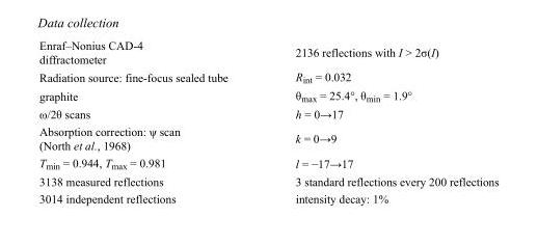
<table><tbody><tr><td>Enraf–Nonius CAD-4 diffractometer</td><td>2136 reflections with I &gt; 2σ(I)</td></tr><tr><td>Radiation source: fine-focus sealed tube</td><td>R<sub>int</sub> = 0.032</td></tr><tr><td>graphite</td><td>θ<sub>max</sub> = 25.4°, θ<sub>min</sub> = 1.9°</td></tr><tr><td>ω/2θ scans</td><td>h = 0→17</td></tr><tr><td>Absorption correction: ψ scan (North et al., 1968)</td><td>k = 0→9</td></tr><tr><td>T<sub>min</sub> = 0.944, T<sub>max</sub> = 0.981</td><td>l = −17→17</td></tr><tr><td>3138 measured reflections</td><td>3 standard reflections every 200 reflections</td></tr><tr><td>3014 independent reflections</td><td>intensity decay: 1%</td></tr></tbody></table>